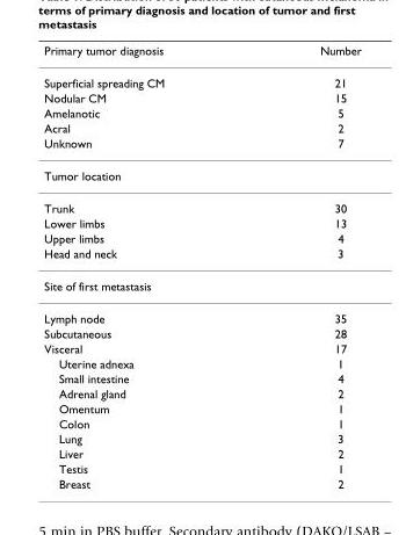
<table><thead><tr><td>Primary tumor diagnosis</td><td>Number</td></tr></thead><tbody><tr><td>Superficial spreading CM</td><td>21</td></tr><tr><td>Nodular CM</td><td>15</td></tr><tr><td>Amelanotic</td><td>5</td></tr><tr><td>Acral</td><td>2</td></tr><tr><td>Unknown</td><td>7</td></tr><tr><td colspan="2">Tumor location</td></tr><tr><td>Trunk</td><td>30</td></tr><tr><td>Lower limbs</td><td>13</td></tr><tr><td>Upper limbs</td><td>4</td></tr><tr><td>Head and neck</td><td>3</td></tr><tr><td colspan="2">Site of first metastasis</td></tr><tr><td>Lymph node</td><td>35</td></tr><tr><td>Subcutaneous</td><td>28</td></tr><tr><td>Visceral</td><td>17</td></tr><tr><td>Uterine adnexa</td><td>1</td></tr><tr><td>Small intestine</td><td>4</td></tr><tr><td>Adrenal gland</td><td>2</td></tr><tr><td>Omentum</td><td>1</td></tr><tr><td>Colon</td><td>1</td></tr><tr><td>Lung</td><td>3</td></tr><tr><td>Liver</td><td>2</td></tr><tr><td>Testis</td><td>1</td></tr><tr><td>Breast</td><td>2</td></tr></tbody></table>